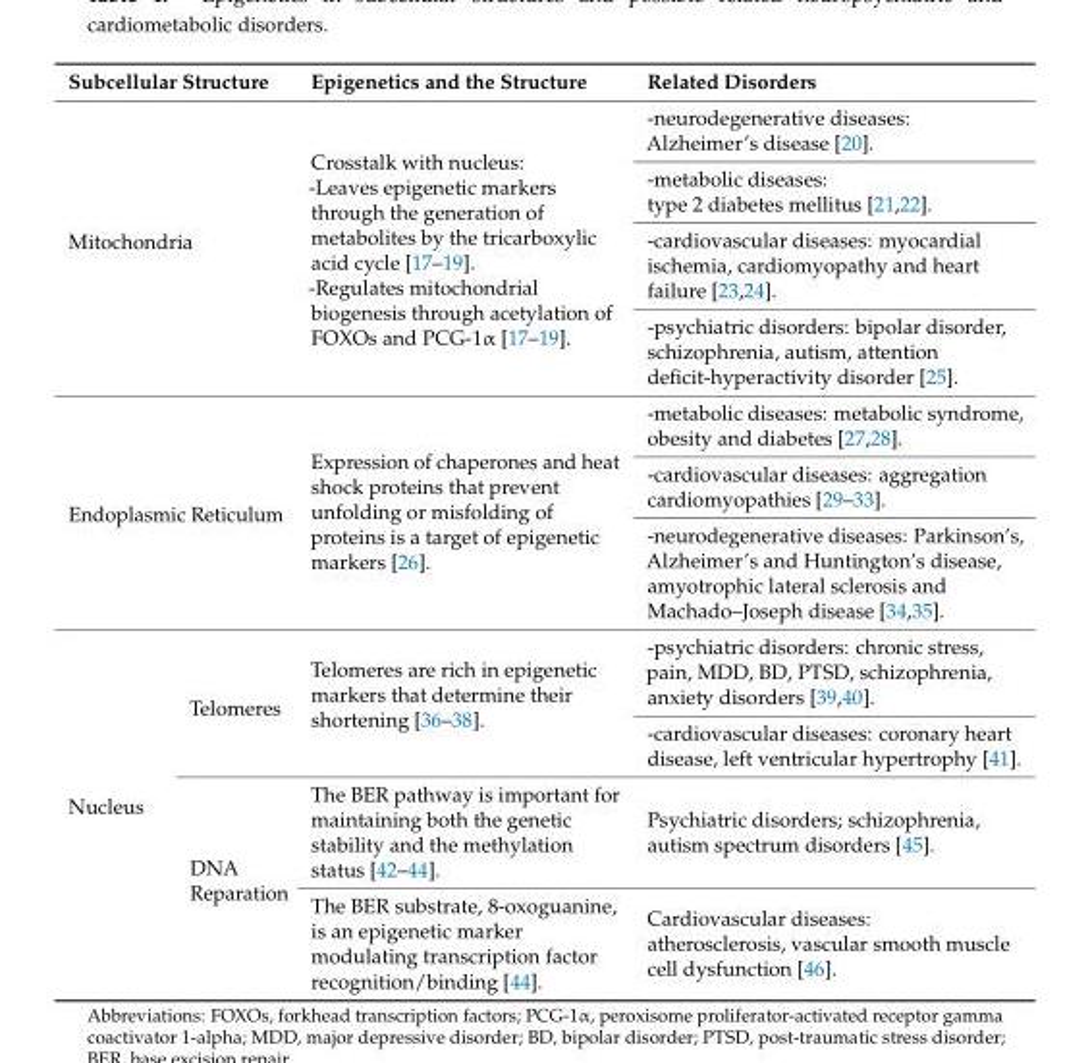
<table><thead><tr><td colspan="2">Subcellular Structure</td><td>Epigenetics and the Structure</td><td>Related Disorders</td></tr></thead><tbody><tr><td rowspan="4" colspan="2">Mitochondria</td><td rowspan="4">Crosstalk with nucleus: -Leaves epigenetic markers through the generation of metabolites by the tricarboxylic acid cycle [17–19]. -Regulates mitochondrial biogenesis through acetylation of FOXOs and PCG-1α [17–19].</td><td>-neurodegenerative diseases: Alzheimer’s disease [20].</td></tr><tr><td>-metabolic diseases: type 2 diabetes mellitus [21,22].</td></tr><tr><td>-cardiovascular diseases: myocardial ischemia, cardiomyopathy and heart failure [23,24].</td></tr><tr><td>-psychiatric disorders: bipolar disorder, schizophrenia, autism, attention deficit-hyperactivity disorder [25].</td></tr><tr><td rowspan="3" colspan="2">Endoplasmic Reticulum</td><td rowspan="3">Expression of chaperones and heat shock proteins that prevent unfolding or misfolding of proteins is a target of epigenetic markers [26].</td><td>-metabolic diseases: metabolic syndrome, obesity and diabetes [27,28].</td></tr><tr><td>-cardiovascular diseases: aggregation cardiomyopathies [29–33].</td></tr><tr><td>-neurodegenerative diseases: Parkinson’s, Alzheimer’s and Huntington’s disease, amyotrophic lateral sclerosis and Machado–Joseph disease [34,35].</td></tr><tr><td rowspan="4">Nucleus</td><td rowspan="2">Telomeres</td><td rowspan="2">Telomeres are rich in epigenetic markers that determine their shortening [36–38].</td><td>-psychiatric disorders: chronic stress, pain, MDD, BD, PTSD, schizophrenia, anxiety disorders [39,40].</td></tr><tr><td>-cardiovascular diseases: coronary heart disease, left ventricular hypertrophy [41].</td></tr><tr><td rowspan="2">DNA Reparation</td><td>The BER pathway is important for maintaining both the genetic stability and the methylation status [42–44].</td><td>Psychiatric disorders; schizophrenia, autism spectrum disorders [45].</td></tr><tr><td>The BER substrate, 8-oxoguanine, is an epigenetic marker modulating transcription factor recognition/binding [44].</td><td>Cardiovascular diseases: atherosclerosis, vascular smooth muscle cell dysfunction [46].</td></tr></tbody></table>